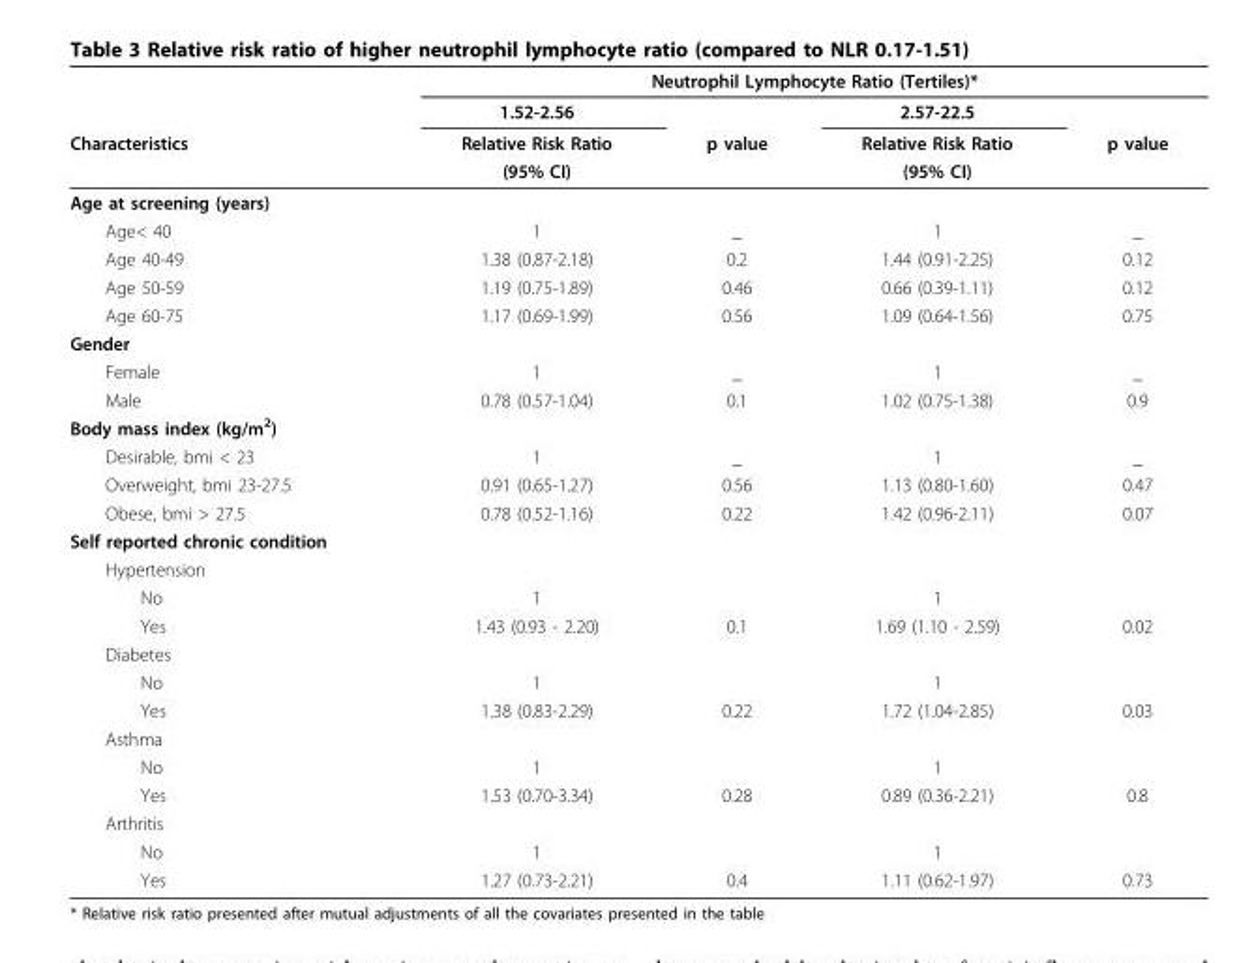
<table><thead><tr><td rowspan="4">Characteristics</td><td colspan="4">Neutrophil Lymphocyte Ratio (Tertiles)*</td></tr><tr><td rowspan="3">1.52-2.56 Relative Risk Ratio (95% CI)</td><td rowspan="3">p value</td><td rowspan="3">2.57-22.5 Relative Risk Ratio (95% CI)</td><td rowspan="3">p value</td></tr><tr></tr><tr></tr></thead><tbody><tr><td colspan="5">Age at screening (years)</td></tr><tr><td>Age&lt; 40</td><td>1</td><td>_</td><td>1</td><td>_</td></tr><tr><td>Age 40-49</td><td>1.38 (0.87-2.18)</td><td>0.2</td><td>1.44 (0.91-2.25)</td><td>0.12</td></tr><tr><td>Age 50-59</td><td>1.19 (0.75-1.89)</td><td>0.46</td><td>0.66 (0.39-1.11)</td><td>0.12</td></tr><tr><td>Age 60-75</td><td>1.17 (0.69-1.99)</td><td>0.56</td><td>1.09 (0.64-1.56)</td><td>0.75</td></tr><tr><td colspan="5">Gender</td></tr><tr><td>Female</td><td>1</td><td>_</td><td>1</td><td>_</td></tr><tr><td>Male</td><td>0.78 (0.57-1.04)</td><td>0.1</td><td>1.02 (0.75-1.38)</td><td>0.9</td></tr><tr><td colspan="5">Body mass index (kg/m<sup>2</sup>)</td></tr><tr><td>Desirable, bmi &lt; 23</td><td>1</td><td>_</td><td>1</td><td>_</td></tr><tr><td>Overweight, bmi 23-27.5</td><td>0.91 (0.65-1.27)</td><td>0.56</td><td>1.13 (0.80-1.60)</td><td>0.47</td></tr><tr><td>Obese, bmi &gt; 27.5</td><td>0.78 (0.52-1.16)</td><td>0.22</td><td>1.42 (0.96-2.11)</td><td>0.07</td></tr><tr><td colspan="5">Self reported chronic condition</td></tr><tr><td colspan="5">Hypertension</td></tr><tr><td>No</td><td>1</td><td></td><td>1</td><td></td></tr><tr><td>Yes</td><td>1.43 (0.93 - 2.20)</td><td>0.1</td><td>1.69 (1.10 - 2.59)</td><td>0.02</td></tr><tr><td colspan="5">Diabetes</td></tr><tr><td>No</td><td>1</td><td></td><td>1</td><td></td></tr><tr><td>Yes</td><td>1.38 (0.83-2.29)</td><td>0.22</td><td>1.72 (1.04-2.85)</td><td>0.03</td></tr><tr><td colspan="5">Asthma</td></tr><tr><td>No</td><td>1</td><td></td><td>1</td><td></td></tr><tr><td>Yes</td><td>1.53 (0.70-3.34)</td><td>0.28</td><td>0.89 (0.36-2.21)</td><td>0.8</td></tr><tr><td colspan="5">Arthritis</td></tr><tr><td>No</td><td>1</td><td></td><td>1</td><td></td></tr><tr><td>Yes</td><td>1.27 (0.73-2.21)</td><td>0.4</td><td>1.11 (0.62-1.97)</td><td>0.73</td></tr></tbody></table>